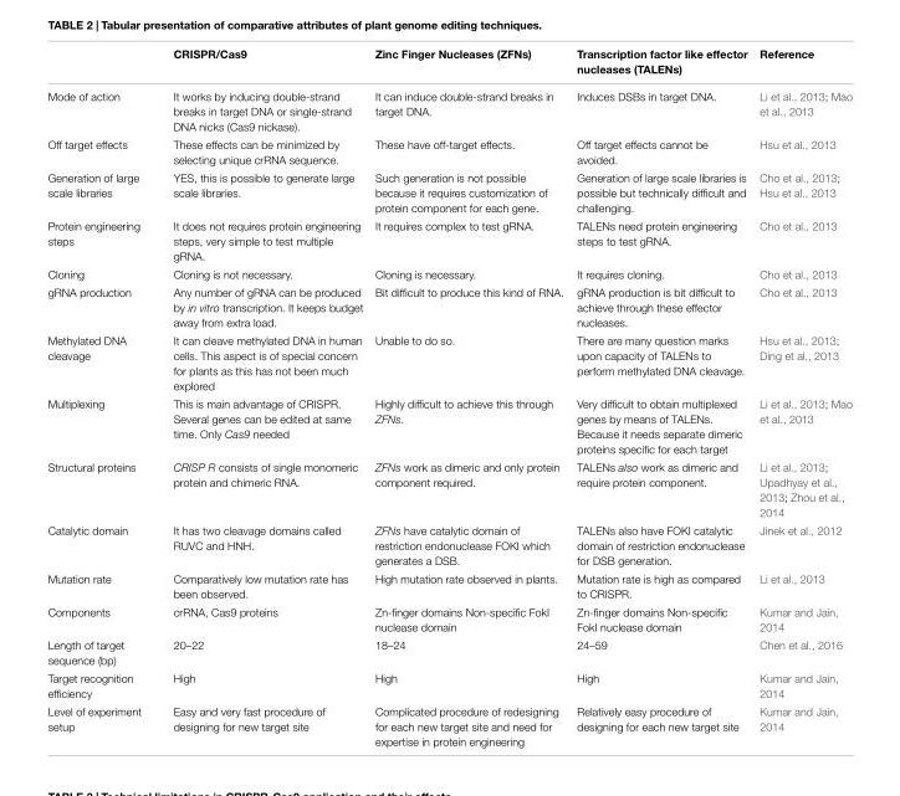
<table><thead><tr><td></td><td>CRISPR/Cas9</td><td>Zinc Finger Nucleases (ZFNs)</td><td>Transcription factor like effector nucleases (TALENs)</td><td>Reference</td></tr></thead><tbody><tr><td>Mode of action</td><td>It works by inducing double-strand breaks in target DNA or single-strand DNA nicks (Cas9 nickase).</td><td>It can induce double-strand breaks in target DNA.</td><td>Induces DSBs in target DNA.</td><td>Li et al., 2013; Mao et al., 2013</td></tr><tr><td>Off target effects</td><td>These effects can be minimized by selecting unique crRNA sequence.</td><td>These have off-target effects.</td><td>Off target effects cannot be avoided.</td><td>Hsu et al., 2013</td></tr><tr><td>Generation of large scale libraries</td><td>YES, this is possible to generate large scale libraries.</td><td>Such generation is not possible because it requires customization of protein component for each gene.</td><td>Generation of large scale libraries is possible but technically difficult and challenging.</td><td>Cho et al., 2013; Hsu et al., 2013</td></tr><tr><td>Protein engineering steps</td><td>It does not requires protein engineering steps, very simple to test multiple gRNA.</td><td>It requires complex to test gRNA.</td><td>TALENs need protein engineering steps to test gRNA.</td><td>Cho et al., 2013</td></tr><tr><td>Cloning</td><td>Cloning is not necessary.</td><td>Cloning is necessary.</td><td>It requires cloning.</td><td>Cho et al., 2013</td></tr><tr><td>gRNA production</td><td>Any number of gRNA can be produced by in vitro transcription. It keeps budget away from extra load.</td><td>Bit difficult to produce this kind of RNA.</td><td>gRNA production is bit difficult to achieve through these effector nucleases.</td><td>Cho et al., 2013</td></tr><tr><td>Methylated DNA cleavage</td><td>It can cleave methylated DNA in human cells. This aspect is of special concern for plants as this has not been much explored</td><td>Unable to do so.</td><td>There are many question marks upon capacity of TALENs to perform methylated DNA cleavage.</td><td>Hsu et al., 2013; Ding et al., 2013</td></tr><tr><td>Multiplexing</td><td>This is main advantage of CRISPR. Several genes can be edited at same time. Only Cas9 needed</td><td>Highly difficult to achieve this through ZFNs.</td><td>Very difficult to obtain multiplexed genes by means of TALENs. Because it needs separate dimeric proteins specific for each target</td><td>Li et al., 2013; Mao et al., 2013</td></tr><tr><td>Structural proteins</td><td>CRISP R consists of single monomeric protein and chimeric RNA.</td><td>ZFNs work as dimeric and only protein component required.</td><td>TALENs also work as dimeric and require protein component.</td><td>Li et al., 2013; Upadhyay et al., 2013; Zhou et al., 2014</td></tr><tr><td>Catalytic domain</td><td>It has two cleavage domains called RUVC and HNH.</td><td>ZFNs have catalytic domain of restriction endonuclease FOKI which generates a DSB.</td><td>TALENs also have FOKI catalytic domain of restriction endonuclease for DSB generation.</td><td>Jinek et al., 2012</td></tr><tr><td>Mutation rate</td><td>Comparatively low mutation rate has been observed.</td><td>High mutation rate observed in plants.</td><td>Mutation rate is high as compared to CRISPR.</td><td>Li et al., 2013</td></tr><tr><td>Components</td><td>crRNA, Cas9 proteins</td><td>Zn-finger domains Non-specific FokI nuclease domain</td><td>Zn-finger domains Non-specific FokI nuclease domain</td><td>Kumar and Jain, 2014</td></tr><tr><td>Length of target sequence (bp)</td><td>20–22</td><td>18–24</td><td>24–59</td><td>Chen et al., 2016</td></tr><tr><td>Target recognition efficiency</td><td>High</td><td>High</td><td>High</td><td>Kumar and Jain, 2014</td></tr><tr><td>Level of experiment setup</td><td>Easy and very fast procedure of designing for new target site</td><td>Complicated procedure of redesigning for each new target site and need for expertise in protein engineering</td><td>Relatively easy procedure of designing for each new target site</td><td>Kumar and Jain, 2014</td></tr></tbody></table>